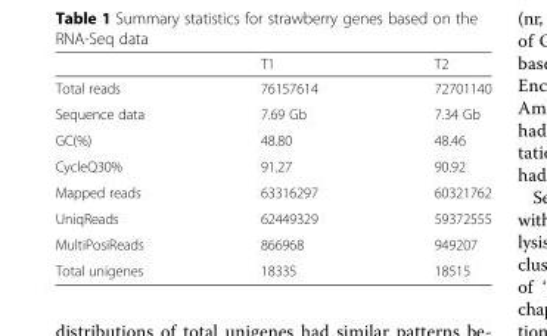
<table><thead><tr><td></td><td>T1</td><td>T2</td></tr></thead><tbody><tr><td>Total reads</td><td>76157614</td><td>72701140</td></tr><tr><td>Sequence data</td><td>7.69 Gb</td><td>7.34 Gb</td></tr><tr><td>GC(%)</td><td>48.80</td><td>48.46</td></tr><tr><td>CycleQ30%</td><td>91.27</td><td>90.92</td></tr><tr><td>Mapped reads</td><td>63316297</td><td>60321762</td></tr><tr><td>UniqReads</td><td>62449329</td><td>59372555</td></tr><tr><td>MultiPosiReads</td><td>866968</td><td>949207</td></tr><tr><td>Total unigenes</td><td>18335</td><td>18515</td></tr></tbody></table>